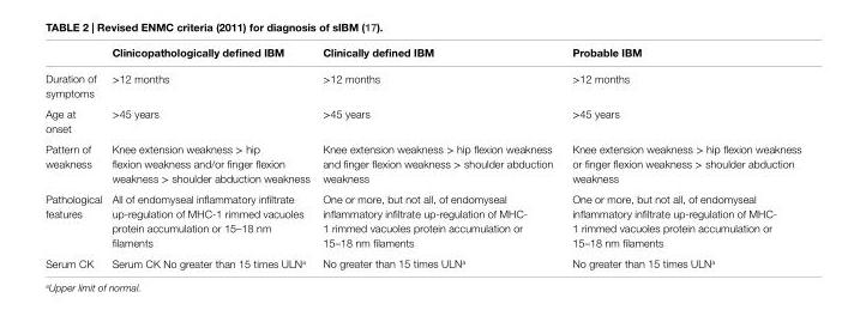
<table><thead><tr><td></td><td>Clinicopathologically defined iBM</td><td>Clinically defined iBM</td><td>Probable iBM</td></tr></thead><tbody><tr><td>Duration of symptoms</td><td>&gt;12 months</td><td>&gt;12 months</td><td>&gt;12 months</td></tr><tr><td>Age at onset</td><td>&gt;45 years</td><td>&gt;45 years</td><td>&gt;45 years</td></tr><tr><td>Pattern of weakness</td><td>Knee extension weakness &gt; hip flexion weakness and/or finger flexion weakness &gt; shoulder abduction weakness</td><td>Knee extension weakness &gt; hip flexion weakness and finger flexion weakness &gt; shoulder abduction weakness</td><td>Knee extension weakness &gt; hip flexion weakness or finger flexion weakness &gt; shoulder abduction weakness</td></tr><tr><td>Pathological features</td><td>All of endomyseal inflammatory infiltrate up-regulation of MHC-1 rimmed vacuoles protein accumulation or 15–18 nm filaments</td><td>One or more, but not all, of endomyseal inflammatory infiltrate up-regulation of MHC- 1 rimmed vacuoles protein accumulation or 15–18 nm filaments</td><td>One or more, but not all, of endomyseal inflammatory infiltrate up-regulation of MHC- 1 rimmed vacuoles protein accumulation or 15–18 nm filaments</td></tr><tr><td>Serum CK</td><td>Serum CK No greater than 15 times ULN<sup>a</sup></td><td>No greater than 15 times ULN<sup>a</sup></td><td>No greater than 15 times ULN<sup>a</sup></td></tr></tbody></table>